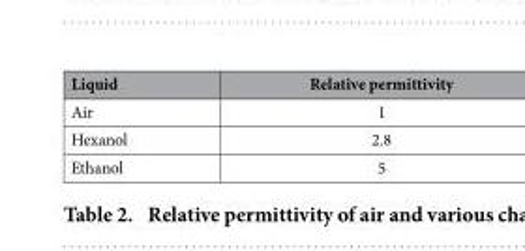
<table><thead><tr><td>Liquid</td><td>Relative permittivity</td></tr></thead><tbody><tr><td>Air</td><td>1</td></tr><tr><td>Hexanol</td><td>2.8</td></tr><tr><td>Ethanol</td><td>5</td></tr></tbody></table>